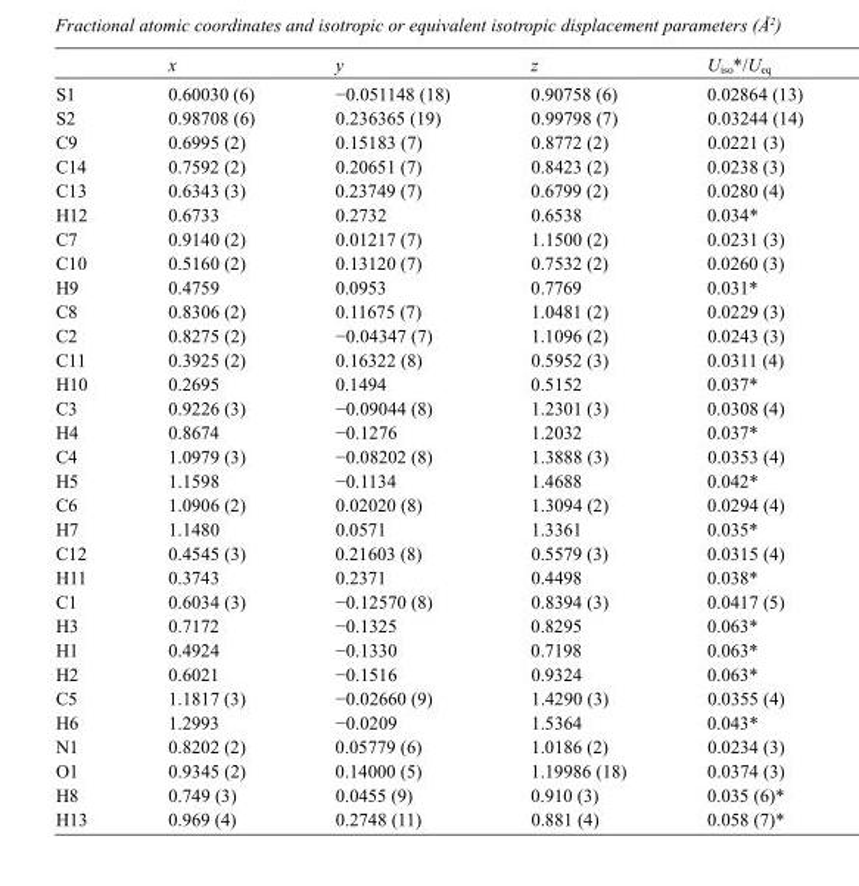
<table><thead><tr><td></td><td>x</td><td>y</td><td>z</td><td>U<sub>iso</sub>*/U<sub>eq</sub></td></tr></thead><tbody><tr><td>S1</td><td>0.60030 (6)</td><td>−0.051148 (18)</td><td>0.90758 (6)</td><td>0.02864 (13)</td></tr><tr><td>S2</td><td>0.98708 (6)</td><td>0.236365 (19)</td><td>0.99798 (7)</td><td>0.03244 (14)</td></tr><tr><td>C9</td><td>0.6995 (2)</td><td>0.15183 (7)</td><td>0.8772 (2)</td><td>0.0221 (3)</td></tr><tr><td>C14</td><td>0.7592 (2)</td><td>0.20651 (7)</td><td>0.8423 (2)</td><td>0.0238 (3)</td></tr><tr><td>C13</td><td>0.6343 (3)</td><td>0.23749 (7)</td><td>0.6799 (2)</td><td>0.0280 (4)</td></tr><tr><td>H12</td><td>0.6733</td><td>0.2732</td><td>0.6538</td><td>0.034*</td></tr><tr><td>C7</td><td>0.9140 (2)</td><td>0.01217 (7)</td><td>1.1500 (2)</td><td>0.0231 (3)</td></tr><tr><td>C10</td><td>0.5160 (2)</td><td>0.13120 (7)</td><td>0.7532 (2)</td><td>0.0260 (3)</td></tr><tr><td>H9</td><td>0.4759</td><td>0.0953</td><td>0.7769</td><td>0.031*</td></tr><tr><td>C8</td><td>0.8306 (2)</td><td>0.11675 (7)</td><td>1.0481 (2)</td><td>0.0229 (3)</td></tr><tr><td>C2</td><td>0.8275 (2)</td><td>−0.04347 (7)</td><td>1.1096 (2)</td><td>0.0243 (3)</td></tr><tr><td>C11</td><td>0.3925 (2)</td><td>0.16322 (8)</td><td>0.5952 (3)</td><td>0.0311 (4)</td></tr><tr><td>H10</td><td>0.2695</td><td>0.1494</td><td>0.5152</td><td>0.037*</td></tr><tr><td>C3</td><td>0.9226 (3)</td><td>−0.09044 (8)</td><td>1.2301 (3)</td><td>0.0308 (4)</td></tr><tr><td>H4</td><td>0.8674</td><td>−0.1276</td><td>1.2032</td><td>0.037*</td></tr><tr><td>C4</td><td>1.0979 (3)</td><td>−0.08202 (8)</td><td>1.3888 (3)</td><td>0.0353 (4)</td></tr><tr><td>H5</td><td>1.1598</td><td>−0.1134</td><td>1.4688</td><td>0.042*</td></tr><tr><td>C6</td><td>1.0906 (2)</td><td>0.02020 (8)</td><td>1.3094 (2)</td><td>0.0294 (4)</td></tr><tr><td>H7</td><td>1.1480</td><td>0.0571</td><td>1.3361</td><td>0.035*</td></tr><tr><td>C12</td><td>0.4545 (3)</td><td>0.21603 (8)</td><td>0.5579 (3)</td><td>0.0315 (4)</td></tr><tr><td>H11</td><td>0.3743</td><td>0.2371</td><td>0.4498</td><td>0.038*</td></tr><tr><td>C1</td><td>0.6034 (3)</td><td>−0.12570 (8)</td><td>0.8394 (3)</td><td>0.0417 (5)</td></tr><tr><td>H3</td><td>0.7172</td><td>−0.1325</td><td>0.8295</td><td>0.063*</td></tr><tr><td>H1</td><td>0.4924</td><td>−0.1330</td><td>0.7198</td><td>0.063*</td></tr><tr><td>H2</td><td>0.6021</td><td>−0.1516</td><td>0.9324</td><td>0.063*</td></tr><tr><td>C5</td><td>1.1817 (3)</td><td>−0.02660 (9)</td><td>1.4290 (3)</td><td>0.0355 (4)</td></tr><tr><td>H6</td><td>1.2993</td><td>−0.0209</td><td>1.5364</td><td>0.043*</td></tr><tr><td>N1</td><td>0.8202 (2)</td><td>0.05779 (6)</td><td>1.0186 (2)</td><td>0.0234 (3)</td></tr><tr><td>O1</td><td>0.9345 (2)</td><td>0.14000 (5)</td><td>1.19986 (18)</td><td>0.0374 (3)</td></tr><tr><td>H8</td><td>0.749 (3)</td><td>0.0455 (9)</td><td>0.910 (3)</td><td>0.035 (6)*</td></tr><tr><td>H13</td><td>0.969 (4)</td><td>0.2748 (11)</td><td>0.881 (4)</td><td>0.058 (7)*</td></tr></tbody></table>